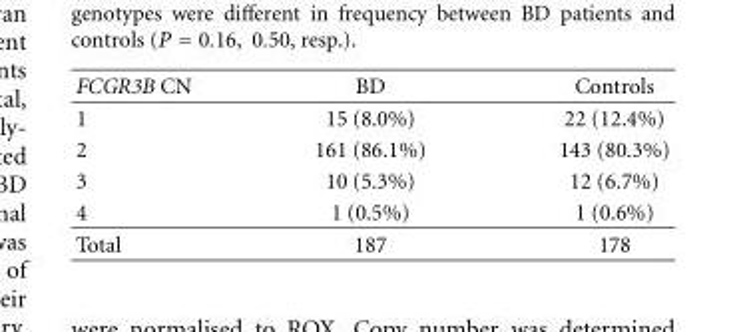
<table><thead><tr><td>FCGR3B CN</td><td>BD</td><td>Controls</td></tr></thead><tbody><tr><td>1</td><td>15 (8.0%)</td><td>22 (12.4%)</td></tr><tr><td>2</td><td>161 (86.1%)</td><td>143 (80.3%)</td></tr><tr><td>3</td><td>10 (5.3%)</td><td>12 (6.7%)</td></tr><tr><td>4</td><td>1 (0.5%)</td><td>1 (0.6%)</td></tr><tr><td>Total</td><td>187</td><td>178</td></tr></tbody></table>